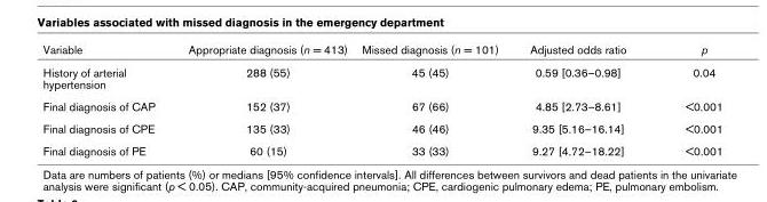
<table><thead><tr><td>Variable</td><td>Appropriate diagnosis (n = 413)</td><td>Missed diagnosis (n = 101)</td><td>Adjusted odds ratio</td><td>p</td></tr></thead><tbody><tr><td>History of arterial hypertension</td><td>288 (55)</td><td>45 (45)</td><td>0.59 [0.36–0.98]</td><td>0.04</td></tr><tr><td>Final diagnosis of CAP</td><td>152 (37)</td><td>67 (66)</td><td>4.85 [2.73–8.61]</td><td>&lt;0.001</td></tr><tr><td>Final diagnosis of CPE</td><td>135 (33)</td><td>46 (46)</td><td>9.35 [5.16–16.14]</td><td>&lt;0.001</td></tr><tr><td>Final diagnosis of PE</td><td>60 (15)</td><td>33 (33)</td><td>9.27 [4.72–18.22]</td><td>&lt;0.001</td></tr></tbody></table>